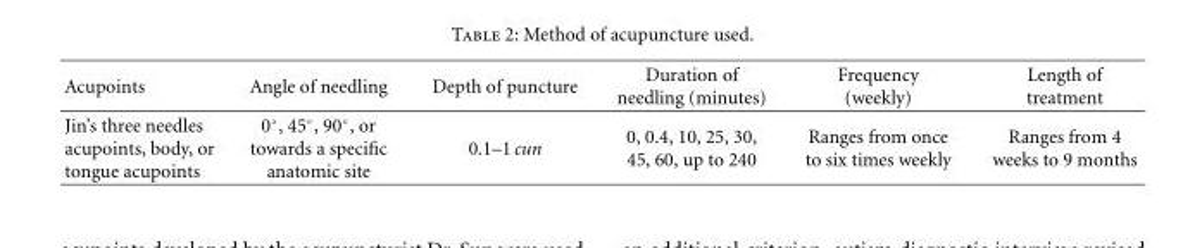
<table><thead><tr><td>Acupoints</td><td>Angle of needling</td><td>Depth of puncture</td><td>Duration of needling (minutes)</td><td>Frequency (weekly)</td><td>Length of treatment</td></tr></thead><tbody><tr><td>Jin’s three needles acupoints, body, or tongue acupoints</td><td>0◦, 45◦, 90◦, or towards a specific anatomic site</td><td>0.1–1 cun</td><td>0, 0.4, 10, 25, 30, 45, 60, up to 240</td><td>Ranges from once to six times weekly</td><td>Ranges from 4 weeks to 9 months</td></tr></tbody></table>